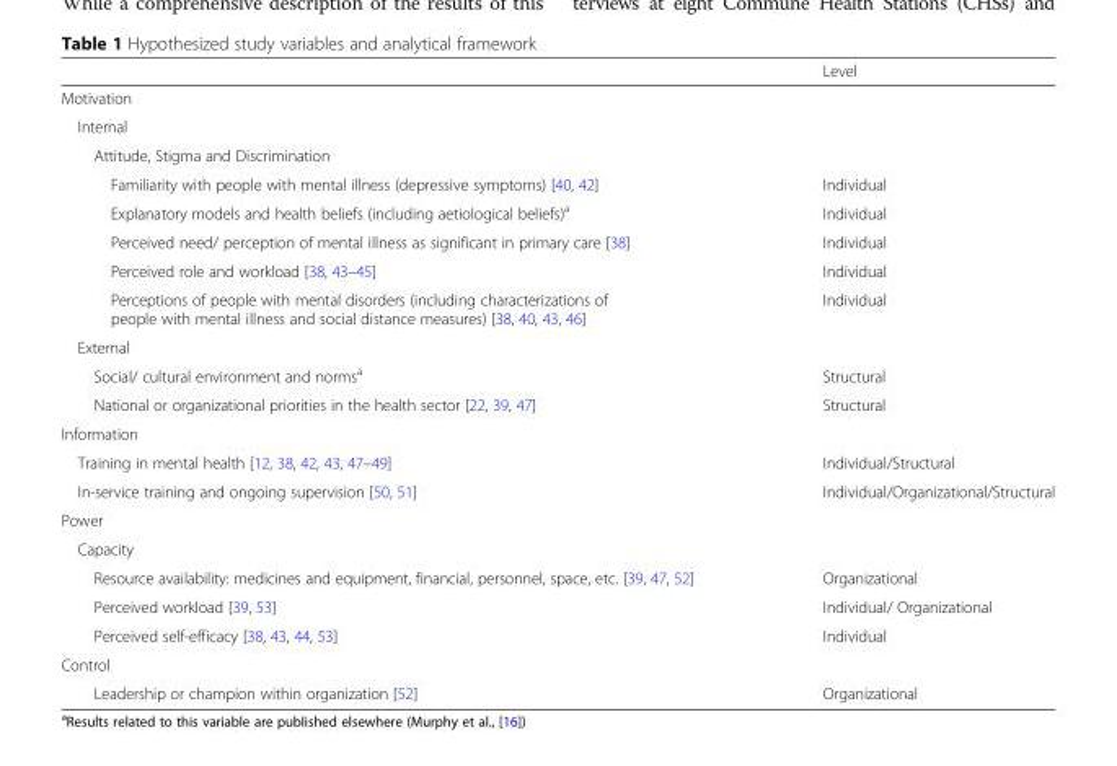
<table><thead><tr><td></td><td>Level</td></tr></thead><tbody><tr><td colspan="2">Motivation</td></tr><tr><td colspan="2">Internal</td></tr><tr><td colspan="2">Attitude, Stigma and Discrimination</td></tr><tr><td>Familiarity with people with mental illness (depressive symptoms) [40, 42]</td><td>Individual</td></tr><tr><td>Explanatory models and health beliefs (including aetiological beliefs)<sup>a</sup></td><td>Individual</td></tr><tr><td>Perceived need/ perception of mental illness as significant in primary care [38]</td><td>Individual</td></tr><tr><td>Perceived role and workload [38, 43–45]</td><td>Individual</td></tr><tr><td>Perceptions of people with mental disorders (including characterizations of people with mental illness and social distance measures) [38, 40, 43, 46]</td><td>Individual</td></tr><tr><td colspan="2">External</td></tr><tr><td>Social/ cultural environment and norms<sup>a</sup></td><td>Structural</td></tr><tr><td>National or organizational priorities in the health sector [22, 39, 47]</td><td>Structural</td></tr><tr><td colspan="2">Information</td></tr><tr><td>Training in mental health [12, 38, 42, 43, 47–49]</td><td>Individual/Structural</td></tr><tr><td>In-service training and ongoing supervision [50, 51]</td><td>Individual/Organizational/Structural</td></tr><tr><td colspan="2">Power</td></tr><tr><td colspan="2">Capacity</td></tr><tr><td>Resource availability: medicines and equipment, financial, personnel, space, etc. [39, 47, 52]</td><td>Organizational</td></tr><tr><td>Perceived workload [39, 53]</td><td>Individual/ Organizational</td></tr><tr><td>Perceived self-efficacy [38, 43, 44, 53]</td><td>Individual</td></tr><tr><td colspan="2">Control</td></tr><tr><td>Leadership or champion within organization [52]</td><td>Organizational</td></tr></tbody></table>